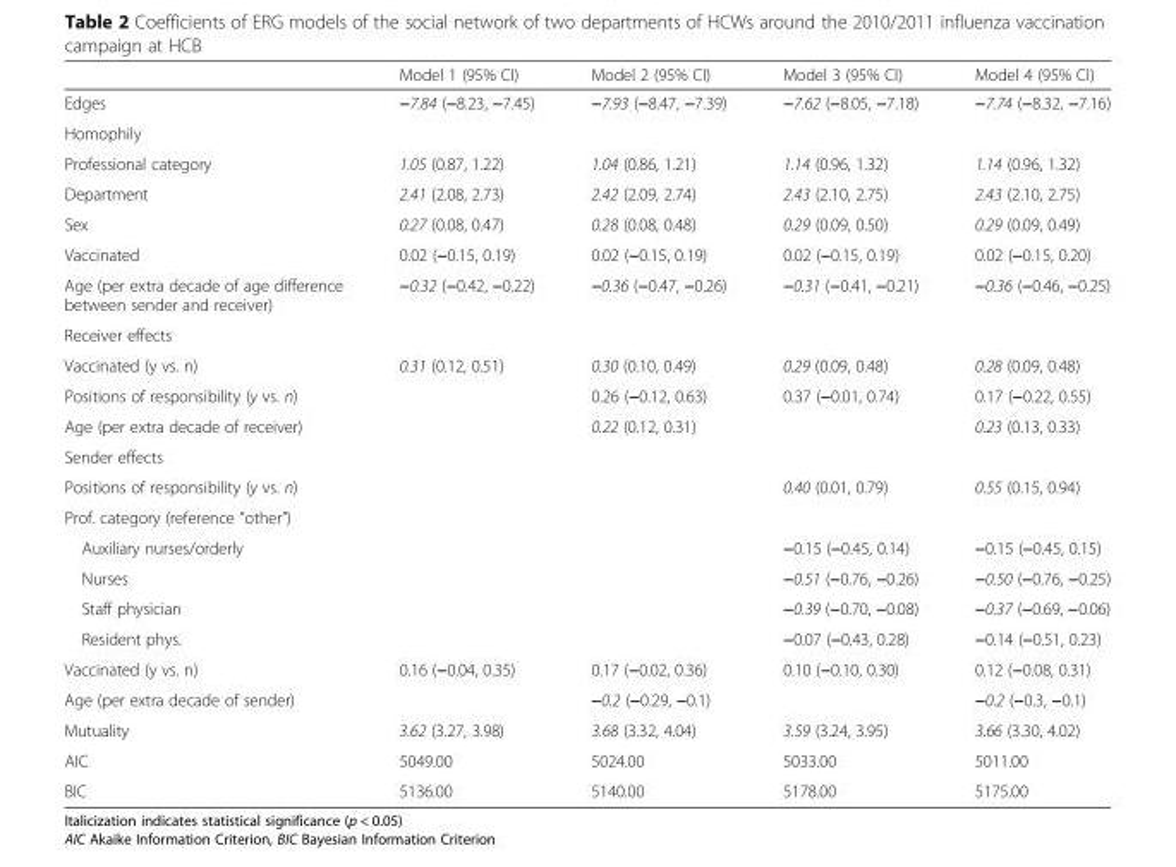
<table><thead><tr><td></td><td>Model 1 (95% CI)</td><td>Model 2 (95% CI)</td><td>Model 3 (95% CI)</td><td>Model 4 (95% CI)</td></tr></thead><tbody><tr><td>Edges</td><td>−7.84 (−8.23, −7.45)</td><td>−7.93 (−8.47, −7.39)</td><td>−7.62 (−8.05, −7.18)</td><td>−7.74 (−8.32, −7.16)</td></tr><tr><td colspan="5">Homophily</td></tr><tr><td>Professional category</td><td>1.05 (0.87, 1.22)</td><td>1.04 (0.86, 1.21)</td><td>1.14 (0.96, 1.32)</td><td>1.14 (0.96, 1.32)</td></tr><tr><td>Department</td><td>2.41 (2.08, 2.73)</td><td>2.42 (2.09, 2.74)</td><td>2.43 (2.10, 2.75)</td><td>2.43 (2.10, 2.75)</td></tr><tr><td>Sex</td><td>0.27 (0.08, 0.47)</td><td>0.28 (0.08, 0.48)</td><td>0.29 (0.09, 0.50)</td><td>0.29 (0.09, 0.49)</td></tr><tr><td>Vaccinated</td><td>0.02 (−0.15, 0.19)</td><td>0.02 (−0.15, 0.19)</td><td>0.02 (−0.15, 0.19)</td><td>0.02 (−0.15, 0.20)</td></tr><tr><td>Age (per extra decade of age difference between sender and receiver)</td><td>−0.32 (−0.42, −0.22)</td><td>−0.36 (−0.47, −0.26)</td><td>−0.31 (−0.41, −0.21)</td><td>−0.36 (−0.46, −0.25)</td></tr><tr><td colspan="5">Receiver effects</td></tr><tr><td>Vaccinated (y vs. n)</td><td>0.31 (0.12, 0.51)</td><td>0.30 (0.10, 0.49)</td><td>0.29 (0.09, 0.48)</td><td>0.28 (0.09, 0.48)</td></tr><tr><td>Positions of responsibility (y vs. n)</td><td></td><td>0.26 (−0.12, 0.63)</td><td>0.37 (−0.01, 0.74)</td><td>0.17 (−0.22, 0.55)</td></tr><tr><td>Age (per extra decade of receiver)</td><td></td><td>0.22 (0.12, 0.31)</td><td></td><td>0.23 (0.13, 0.33)</td></tr><tr><td colspan="5">Sender effects</td></tr><tr><td>Positions of responsibility (y vs. n)</td><td></td><td></td><td>0.40 (0.01, 0.79)</td><td>0.55 (0.15, 0.94)</td></tr><tr><td colspan="5">Prof. category (reference “other”)</td></tr><tr><td>Auxiliary nurses/orderly</td><td></td><td></td><td>−0.15 (−0.45, 0.14)</td><td>−0.15 (−0.45, 0.15)</td></tr><tr><td>Nurses</td><td></td><td></td><td>−0.51 (−0.76, −0.26)</td><td>−0.50 (−0.76, −0.25)</td></tr><tr><td>Staff physician</td><td></td><td></td><td>−0.39 (−0.70, −0.08)</td><td>−0.37 (−0.69, −0.06)</td></tr><tr><td>Resident phys.</td><td></td><td></td><td>−0.07 (−0.43, 0.28)</td><td>−0.14 (−0.51, 0.23)</td></tr><tr><td>Vaccinated (y vs. n)</td><td>0.16 (−0.04, 0.35)</td><td>0.17 (−0.02, 0.36)</td><td>0.10 (−0.10, 0.30)</td><td>0.12 (−0.08, 0.31)</td></tr><tr><td>Age (per extra decade of sender)</td><td></td><td>−0.2 (−0.29, −0.1)</td><td></td><td>−0.2 (−0.3, −0.1)</td></tr><tr><td>Mutuality</td><td>3.62 (3.27, 3.98)</td><td>3.68 (3.32, 4.04)</td><td>3.59 (3.24, 3.95)</td><td>3.66 (3.30, 4.02)</td></tr><tr><td>AIC</td><td>5049.00</td><td>5024.00</td><td>5033.00</td><td>5011.00</td></tr><tr><td>BIC</td><td>5136.00</td><td>5140.00</td><td>5178.00</td><td>5175.00</td></tr></tbody></table>